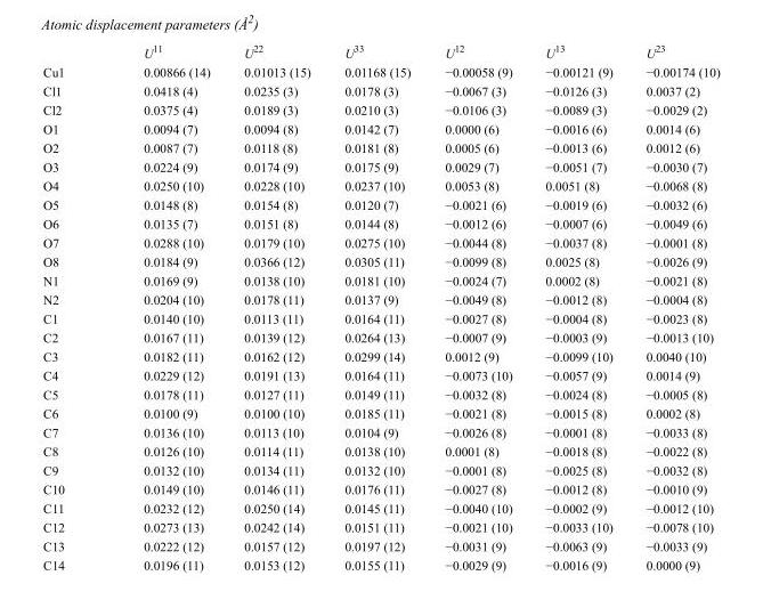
<table><thead><tr><td></td><td>U<sup>11</sup></td><td>U<sup>22</sup></td><td>U<sup>33</sup></td><td>U<sup>12</sup></td><td>U<sup>13</sup></td><td>U<sup>23</sup></td></tr></thead><tbody><tr><td>Cu1</td><td>0.00866 (14)</td><td>0.01013 (15)</td><td>0.01168 (15)</td><td>−0.00058 (9)</td><td>−0.00121 (9)</td><td>−0.00174 (10)</td></tr><tr><td>Cl1</td><td>0.0418 (4)</td><td>0.0235 (3)</td><td>0.0178 (3)</td><td>−0.0067 (3)</td><td>−0.0126 (3)</td><td>0.0037 (2)</td></tr><tr><td>Cl2</td><td>0.0375 (4)</td><td>0.0189 (3)</td><td>0.0210 (3)</td><td>−0.0106 (3)</td><td>−0.0089 (3)</td><td>−0.0029 (2)</td></tr><tr><td>O1</td><td>0.0094 (7)</td><td>0.0094 (8)</td><td>0.0142 (7)</td><td>0.0000 (6)</td><td>−0.0016 (6)</td><td>0.0014 (6)</td></tr><tr><td>O2</td><td>0.0087 (7)</td><td>0.0118 (8)</td><td>0.0181 (8)</td><td>0.0005 (6)</td><td>−0.0013 (6)</td><td>0.0012 (6)</td></tr><tr><td>O3</td><td>0.0224 (9)</td><td>0.0174 (9)</td><td>0.0175 (9)</td><td>0.0029 (7)</td><td>−0.0051 (7)</td><td>−0.0030 (7)</td></tr><tr><td>O4</td><td>0.0250 (10)</td><td>0.0228 (10)</td><td>0.0237 (10)</td><td>0.0053 (8)</td><td>0.0051 (8)</td><td>−0.0068 (8)</td></tr><tr><td>O5</td><td>0.0148 (8)</td><td>0.0154 (8)</td><td>0.0120 (7)</td><td>−0.0021 (6)</td><td>−0.0019 (6)</td><td>−0.0032 (6)</td></tr><tr><td>O6</td><td>0.0135 (7)</td><td>0.0151 (8)</td><td>0.0144 (8)</td><td>−0.0012 (6)</td><td>−0.0007 (6)</td><td>−0.0049 (6)</td></tr><tr><td>O7</td><td>0.0288 (10)</td><td>0.0179 (10)</td><td>0.0275 (10)</td><td>−0.0044 (8)</td><td>−0.0037 (8)</td><td>−0.0001 (8)</td></tr><tr><td>O8</td><td>0.0184 (9)</td><td>0.0366 (12)</td><td>0.0305 (11)</td><td>−0.0099 (8)</td><td>0.0025 (8)</td><td>−0.0026 (9)</td></tr><tr><td>N1</td><td>0.0169 (9)</td><td>0.0138 (10)</td><td>0.0181 (10)</td><td>−0.0024 (7)</td><td>0.0002 (8)</td><td>−0.0021 (8)</td></tr><tr><td>N2</td><td>0.0204 (10)</td><td>0.0178 (11)</td><td>0.0137 (9)</td><td>−0.0049 (8)</td><td>−0.0012 (8)</td><td>−0.0004 (8)</td></tr><tr><td>C1</td><td>0.0140 (10)</td><td>0.0113 (11)</td><td>0.0164 (11)</td><td>−0.0027 (8)</td><td>−0.0004 (8)</td><td>−0.0023 (8)</td></tr><tr><td>C2</td><td>0.0167 (11)</td><td>0.0139 (12)</td><td>0.0264 (13)</td><td>−0.0007 (9)</td><td>−0.0003 (9)</td><td>−0.0013 (10)</td></tr><tr><td>C3</td><td>0.0182 (11)</td><td>0.0162 (12)</td><td>0.0299 (14)</td><td>0.0012 (9)</td><td>−0.0099 (10)</td><td>0.0040 (10)</td></tr><tr><td>C4</td><td>0.0229 (12)</td><td>0.0191 (13)</td><td>0.0164 (11)</td><td>−0.0073 (10)</td><td>−0.0057 (9)</td><td>0.0014 (9)</td></tr><tr><td>C5</td><td>0.0178 (11)</td><td>0.0127 (11)</td><td>0.0149 (11)</td><td>−0.0032 (8)</td><td>−0.0024 (8)</td><td>−0.0005 (8)</td></tr><tr><td>C6</td><td>0.0100 (9)</td><td>0.0100 (10)</td><td>0.0185 (11)</td><td>−0.0021 (8)</td><td>−0.0015 (8)</td><td>0.0002 (8)</td></tr><tr><td>C7</td><td>0.0136 (10)</td><td>0.0113 (10)</td><td>0.0104 (9)</td><td>−0.0026 (8)</td><td>−0.0001 (8)</td><td>−0.0033 (8)</td></tr><tr><td>C8</td><td>0.0126 (10)</td><td>0.0114 (11)</td><td>0.0138 (10)</td><td>0.0001 (8)</td><td>−0.0018 (8)</td><td>−0.0022 (8)</td></tr><tr><td>C9</td><td>0.0132 (10)</td><td>0.0134 (11)</td><td>0.0132 (10)</td><td>−0.0001 (8)</td><td>−0.0025 (8)</td><td>−0.0032 (8)</td></tr><tr><td>C10</td><td>0.0149 (10)</td><td>0.0146 (11)</td><td>0.0176 (11)</td><td>−0.0027 (8)</td><td>−0.0012 (8)</td><td>−0.0010 (9)</td></tr><tr><td>C11</td><td>0.0232 (12)</td><td>0.0250 (14)</td><td>0.0145 (11)</td><td>−0.0040 (10)</td><td>−0.0002 (9)</td><td>−0.0012 (10)</td></tr><tr><td>C12</td><td>0.0273 (13)</td><td>0.0242 (14)</td><td>0.0151 (11)</td><td>−0.0021 (10)</td><td>−0.0033 (10)</td><td>−0.0078 (10)</td></tr><tr><td>C13</td><td>0.0222 (12)</td><td>0.0157 (12)</td><td>0.0197 (12)</td><td>−0.0031 (9)</td><td>−0.0063 (9)</td><td>−0.0033 (9)</td></tr><tr><td>C14</td><td>0.0196 (11)</td><td>0.0153 (12)</td><td>0.0155 (11)</td><td>−0.0029 (9)</td><td>−0.0016 (9)</td><td>0.0000 (9)</td></tr></tbody></table>